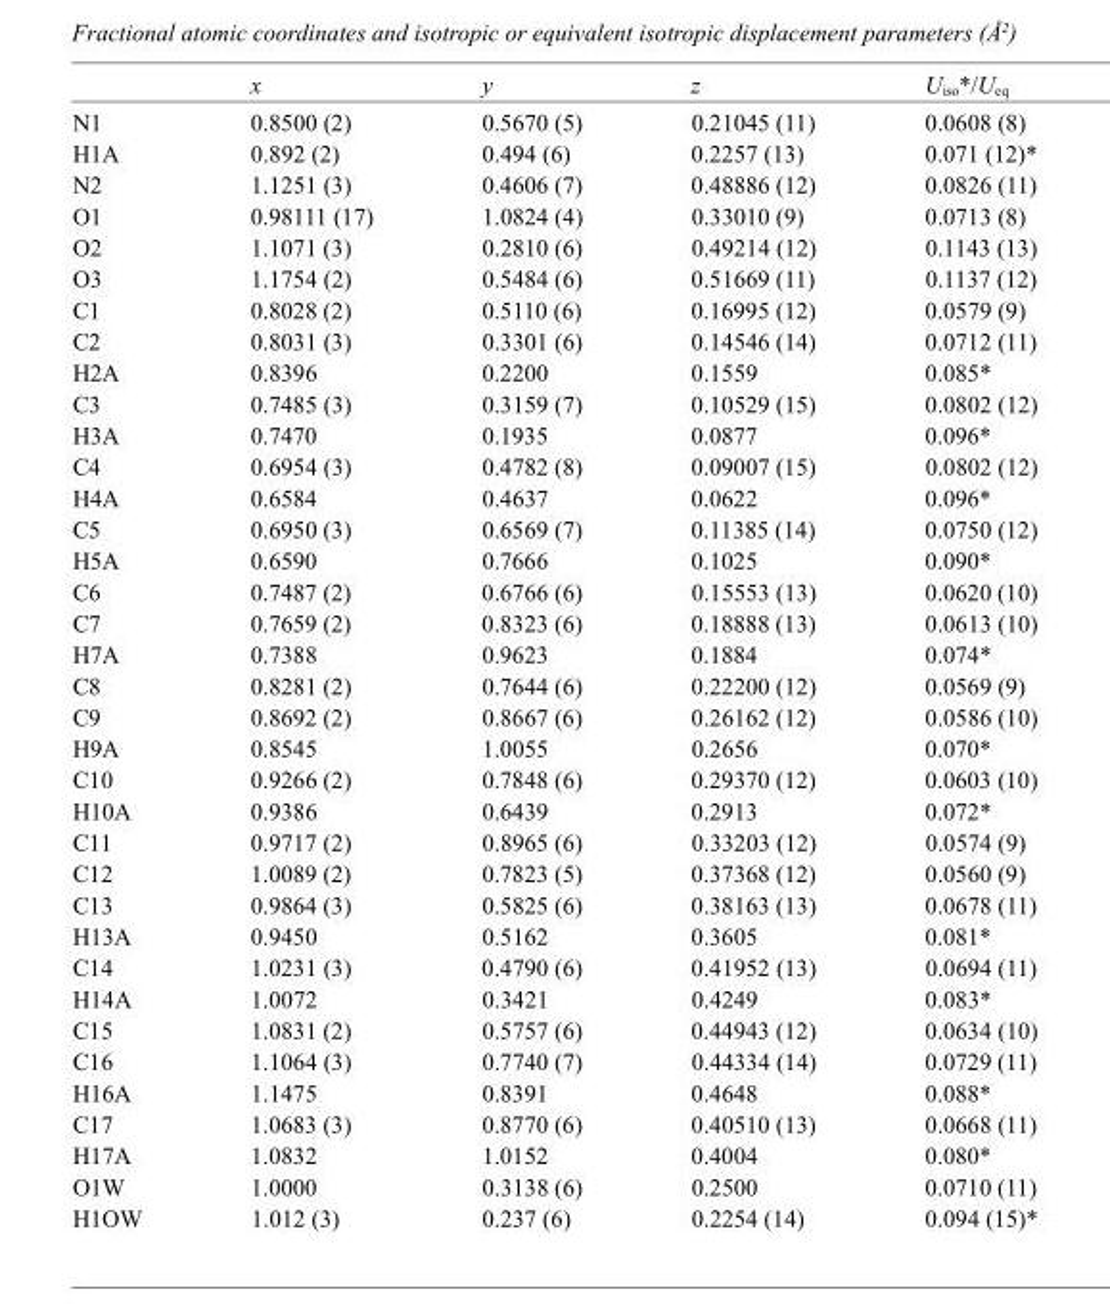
<table><thead><tr><td></td><td>x</td><td>y</td><td>z</td><td>U<sub>iso</sub>*/U<sub>eq</sub></td></tr></thead><tbody><tr><td>N1</td><td>0.8500 (2)</td><td>0.5670 (5)</td><td>0.21045 (11)</td><td>0.0608 (8)</td></tr><tr><td>H1A</td><td>0.892 (2)</td><td>0.494 (6)</td><td>0.2257 (13)</td><td>0.071 (12)*</td></tr><tr><td>N2</td><td>1.1251 (3)</td><td>0.4606 (7)</td><td>0.48886 (12)</td><td>0.0826 (11)</td></tr><tr><td>O1</td><td>0.98111 (17)</td><td>1.0824 (4)</td><td>0.33010 (9)</td><td>0.0713 (8)</td></tr><tr><td>O2</td><td>1.1071 (3)</td><td>0.2810 (6)</td><td>0.49214 (12)</td><td>0.1143 (13)</td></tr><tr><td>O3</td><td>1.1754 (2)</td><td>0.5484 (6)</td><td>0.51669 (11)</td><td>0.1137 (12)</td></tr><tr><td>C1</td><td>0.8028 (2)</td><td>0.5110 (6)</td><td>0.16995 (12)</td><td>0.0579 (9)</td></tr><tr><td>C2</td><td>0.8031 (3)</td><td>0.3301 (6)</td><td>0.14546 (14)</td><td>0.0712 (11)</td></tr><tr><td>H2A</td><td>0.8396</td><td>0.2200</td><td>0.1559</td><td>0.085*</td></tr><tr><td>C3</td><td>0.7485 (3)</td><td>0.3159 (7)</td><td>0.10529 (15)</td><td>0.0802 (12)</td></tr><tr><td>H3A</td><td>0.7470</td><td>0.1935</td><td>0.0877</td><td>0.096*</td></tr><tr><td>C4</td><td>0.6954 (3)</td><td>0.4782 (8)</td><td>0.09007 (15)</td><td>0.0802 (12)</td></tr><tr><td>H4A</td><td>0.6584</td><td>0.4637</td><td>0.0622</td><td>0.096*</td></tr><tr><td>C5</td><td>0.6950 (3)</td><td>0.6569 (7)</td><td>0.11385 (14)</td><td>0.0750 (12)</td></tr><tr><td>H5A</td><td>0.6590</td><td>0.7666</td><td>0.1025</td><td>0.090*</td></tr><tr><td>C6</td><td>0.7487 (2)</td><td>0.6766 (6)</td><td>0.15553 (13)</td><td>0.0620 (10)</td></tr><tr><td>C7</td><td>0.7659 (2)</td><td>0.8323 (6)</td><td>0.18888 (13)</td><td>0.0613 (10)</td></tr><tr><td>H7A</td><td>0.7388</td><td>0.9623</td><td>0.1884</td><td>0.074*</td></tr><tr><td>C8</td><td>0.8281 (2)</td><td>0.7644 (6)</td><td>0.22200 (12)</td><td>0.0569 (9)</td></tr><tr><td>C9</td><td>0.8692 (2)</td><td>0.8667 (6)</td><td>0.26162 (12)</td><td>0.0586 (10)</td></tr><tr><td>H9A</td><td>0.8545</td><td>1.0055</td><td>0.2656</td><td>0.070*</td></tr><tr><td>C10</td><td>0.9266 (2)</td><td>0.7848 (6)</td><td>0.29370 (12)</td><td>0.0603 (10)</td></tr><tr><td>H10A</td><td>0.9386</td><td>0.6439</td><td>0.2913</td><td>0.072*</td></tr><tr><td>C11</td><td>0.9717 (2)</td><td>0.8965 (6)</td><td>0.33203 (12)</td><td>0.0574 (9)</td></tr><tr><td>C12</td><td>1.0089 (2)</td><td>0.7823 (5)</td><td>0.37368 (12)</td><td>0.0560 (9)</td></tr><tr><td>C13</td><td>0.9864 (3)</td><td>0.5825 (6)</td><td>0.38163 (13)</td><td>0.0678 (11)</td></tr><tr><td>H13A</td><td>0.9450</td><td>0.5162</td><td>0.3605</td><td>0.081*</td></tr><tr><td>C14</td><td>1.0231 (3)</td><td>0.4790 (6)</td><td>0.41952 (13)</td><td>0.0694 (11)</td></tr><tr><td>H14A</td><td>1.0072</td><td>0.3421</td><td>0.4249</td><td>0.083*</td></tr><tr><td>C15</td><td>1.0831 (2)</td><td>0.5757 (6)</td><td>0.44943 (12)</td><td>0.0634 (10)</td></tr><tr><td>C16</td><td>1.1064 (3)</td><td>0.7740 (7)</td><td>0.44334 (14)</td><td>0.0729 (11)</td></tr><tr><td>H16A</td><td>1.1475</td><td>0.8391</td><td>0.4648</td><td>0.088*</td></tr><tr><td>C17</td><td>1.0683 (3)</td><td>0.8770 (6)</td><td>0.40510 (13)</td><td>0.0668 (11)</td></tr><tr><td>H17A</td><td>1.0832</td><td>1.0152</td><td>0.4004</td><td>0.080*</td></tr><tr><td>O1W</td><td>1.0000</td><td>0.3138 (6)</td><td>0.2500</td><td>0.0710 (11)</td></tr><tr><td>H1OW</td><td>1.012 (3)</td><td>0.237 (6)</td><td>0.2254 (14)</td><td>0.094 (15)*</td></tr></tbody></table>